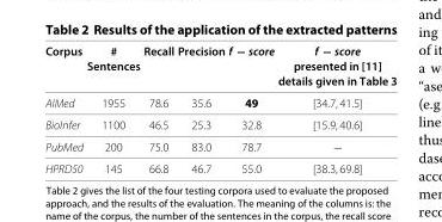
<table><thead><tr><td rowspan="3">Corpus</td><td rowspan="3"># Sentences</td><td rowspan="3">Recall</td><td rowspan="3">Precision</td><td rowspan="3">f − score</td><td rowspan="3">f − score presented in [11] details given in Table 3</td></tr><tr></tr><tr></tr></thead><tbody><tr><td>AIMed</td><td>1955</td><td>78.6</td><td>35.6</td><td>49</td><td>[34.7, 41.5]</td></tr><tr><td>BioInfer</td><td>1100</td><td>46.5</td><td>25.3</td><td>32.8</td><td>[15.9, 40.6]</td></tr><tr><td>PubMed</td><td>200</td><td>75.0</td><td>83.0</td><td>78.7</td><td>−</td></tr><tr><td>HPRD50</td><td>145</td><td>66.8</td><td>46.7</td><td>55.0</td><td>[38.3, 69.8]</td></tr></tbody></table>